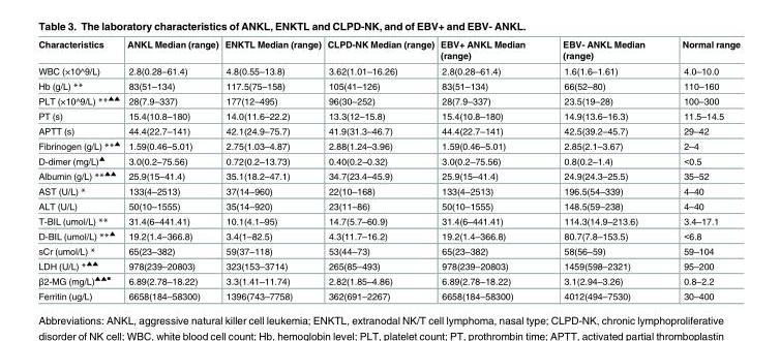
<table><thead><tr><td>Characteristics</td><td>ANKL Median (range)</td><td>ENKTL Median (range)</td><td>CLPD-NK Median (range)</td><td>EBV+ ANKL Median (range)</td><td>EBV- ANKL Median (range)</td><td>Normal range</td></tr></thead><tbody><tr><td>WBC (×10^9/L)</td><td>2.8(0.28–61.4)</td><td>4.8(0.55–13.8)</td><td>3.62(1.01–16.26)</td><td>2.8(0.28–61.4)</td><td>1.6(1.6–1.61)</td><td>4.0–10.0</td></tr><tr><td>Hb (g/L) **</td><td>83(51–134)</td><td>117.5(75–158)</td><td>105(41–126)</td><td>83(51–134)</td><td>66(52–80)</td><td>110–160</td></tr><tr><td>PLT (×10^9/L) **<sup>▲▲</sup></td><td>28(7.9–337)</td><td>177(12–495)</td><td>96(30–252)</td><td>28(7.9–337)</td><td>23.5(19–28)</td><td>100–300</td></tr><tr><td>PT (s)</td><td>15.4(10.8–180)</td><td>14.0(11.6–22.2)</td><td>13.3(12–15.8)</td><td>15.4(10.8–180)</td><td>14.9(13.6–16.3)</td><td>11.5–14.5</td></tr><tr><td>APTT (s)</td><td>44.4(22.7–141)</td><td>42.1(24.9–75.7)</td><td>41.9(31.3–46.7)</td><td>44.4(22.7–141)</td><td>42.5(39.2–45.7)</td><td>29–42</td></tr><tr><td>Fibrinogen (g/L) **<sup>▲</sup></td><td>1.59(0.46–5.01)</td><td>2.75(1.03–4.87)</td><td>2.88(1.24–3.96)</td><td>1.59(0.46–5.01)</td><td>2.85(2.1–3.67)</td><td>2–4</td></tr><tr><td>D-dimer (mg/L)<sup>▲</sup></td><td>3.0(0.2–75.56)</td><td>0.72(0.2–13.73)</td><td>0.40(0.2–0.32)</td><td>3.0(0.2–75.56)</td><td>0.8(0.2–1.4)</td><td>&lt;0.5</td></tr><tr><td>Albumin (g/L) **<sup>▲▲</sup></td><td>25.9(15–41.4)</td><td>35.1(18.2–47.1)</td><td>34.7(23.4–45.9)</td><td>25.9(15–41.4)</td><td>24.9(24.3–25.5)</td><td>35–52</td></tr><tr><td>AST (U/L) *</td><td>133(4–2513)</td><td>37(14–960)</td><td>22(10–168)</td><td>133(4–2513)</td><td>196.5(54–339)</td><td>4–40</td></tr><tr><td>ALT (U/L)</td><td>50(10–1555)</td><td>35(14–920)</td><td>23(11–86)</td><td>50(10–1555)</td><td>148.5(59–238)</td><td>4–40</td></tr><tr><td>T-BIL (umol/L) **</td><td>31.4(6–441.41)</td><td>10.1(4.1–95)</td><td>14.7(5.7–60.9)</td><td>31.4(6–441.41)</td><td>114.3(14.9–213.6)</td><td>3.4–17.1</td></tr><tr><td>D-BIL (umol/L) **<sup>▲</sup></td><td>19.2(1.4–366.8)</td><td>3.4(1–82.5)</td><td>4.3(11.7–16.2)</td><td>19.2(1.4–366.8)</td><td>80.7(7.8–153.5)</td><td>&lt;6.8</td></tr><tr><td>sCr (umol/L) *</td><td>65(23–382)</td><td>59(37–118)</td><td>53(44–73)</td><td>65(23–382)</td><td>58(56–59)</td><td>59–104</td></tr><tr><td>LDH (U/L) *<sup>▲▲</sup></td><td>978(239–20803)</td><td>323(153–3714)</td><td>265(85–493)</td><td>978(239–20803)</td><td>1459(598–2321)</td><td>95–200</td></tr><tr><td>β2-MG (mg/L)<sup>▲▲■</sup></td><td>6.89(2.78–18.22)</td><td>3.3(1.41–11.74)</td><td>2.82(1.85–4.86)</td><td>6.89(2.78–18.22)</td><td>3.1(2.94–3.26)</td><td>0.8–2.2</td></tr><tr><td>Ferritin (ug/L)</td><td>6658(184–58300)</td><td>1396(743–7758)</td><td>362(691–2267)</td><td>6658(184–58300)</td><td>4012(494–7530)</td><td>30–400</td></tr></tbody></table>